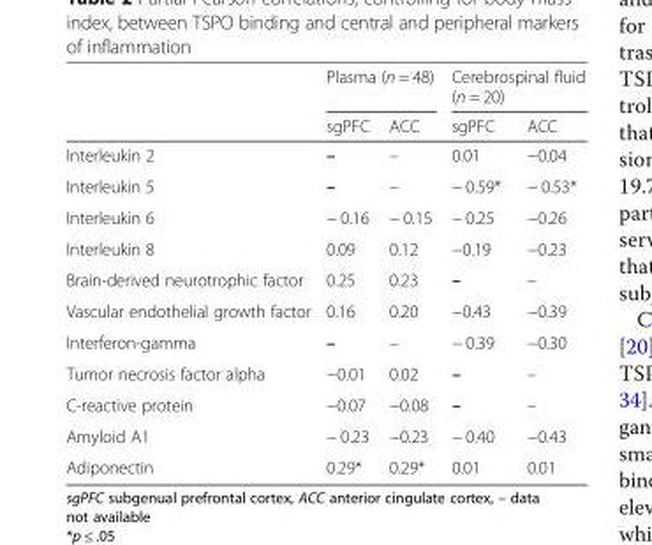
<table><thead><tr><td rowspan="2"></td><td colspan="2">Plasma (n = 48)</td><td colspan="2">Cerebrospinal fluid (n = 20)</td></tr><tr><td>sgPFC</td><td>ACC</td><td>sgPFC</td><td>ACC</td></tr></thead><tbody><tr><td>Interleukin 2</td><td>–</td><td>–</td><td>0.01</td><td>−0.04</td></tr><tr><td>Interleukin 5</td><td>–</td><td>–</td><td>− 0.59*</td><td>− 0.53*</td></tr><tr><td>Interleukin 6</td><td>− 0.16</td><td>− 0.15</td><td>− 0.25</td><td>−0.26</td></tr><tr><td>Interleukin 8</td><td>0.09</td><td>0.12</td><td>−0.19</td><td>−0.23</td></tr><tr><td>Brain-derived neurotrophic factor</td><td>0.25</td><td>0.23</td><td>–</td><td>–</td></tr><tr><td>Vascular endothelial growth factor</td><td>0.16</td><td>0.20</td><td>−0.43</td><td>−0.39</td></tr><tr><td>Interferon-gamma</td><td>–</td><td>–</td><td>− 0.39</td><td>−0.30</td></tr><tr><td>Tumor necrosis factor alpha</td><td>−0.01</td><td>0.02</td><td>–</td><td>–</td></tr><tr><td>C-reactive protein</td><td>−0.07</td><td>−0.08</td><td>–</td><td>–</td></tr><tr><td>Amyloid A1</td><td>− 0.23</td><td>−0.23</td><td>− 0.40</td><td>−0.43</td></tr><tr><td>Adiponectin</td><td>0.29*</td><td>0.29*</td><td>0.01</td><td>0.01</td></tr></tbody></table>